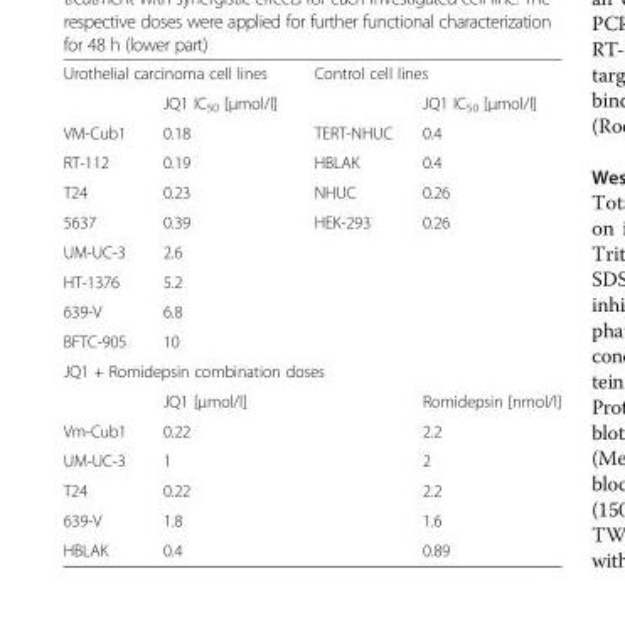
<table><tbody><tr><td colspan="2">Urothelial carcinoma cell lines</td><td colspan="2">Control cell lines</td></tr><tr><td></td><td>JQ1 IC<sub>50</sub> [μmol/l]</td><td></td><td>JQ1 IC<sub>50</sub> [μmol/l]</td></tr><tr><td>VM-Cub1</td><td>0.18</td><td>TERT-NHUC</td><td>0.4</td></tr><tr><td>RT-112</td><td>0.19</td><td>HBLAK</td><td>0.4</td></tr><tr><td>T24</td><td>0.23</td><td>NHUC</td><td>0.26</td></tr><tr><td>5637</td><td>0.39</td><td>HEK-293</td><td>0.26</td></tr><tr><td>UM-UC-3</td><td>2.6</td><td></td><td></td></tr><tr><td>HT-1376</td><td>5.2</td><td></td><td></td></tr><tr><td>639-V</td><td>6.8</td><td></td><td></td></tr><tr><td>BFTC-905</td><td>10</td><td></td><td></td></tr><tr><td colspan="4">JQ1 + Romidepsin combination doses</td></tr><tr><td></td><td colspan="2">JQ1 [μmol/l]</td><td>Romidepsin [nmol/l]</td></tr><tr><td>Vm-Cub1</td><td colspan="2">0.22</td><td>2.2</td></tr><tr><td>UM-UC-3</td><td colspan="2">1</td><td>2</td></tr><tr><td>T24</td><td colspan="2">0.22</td><td>2.2</td></tr><tr><td>639-V</td><td colspan="2">1.8</td><td>1.6</td></tr><tr><td>HBLAK</td><td colspan="2">0.4</td><td>0.89</td></tr></tbody></table>